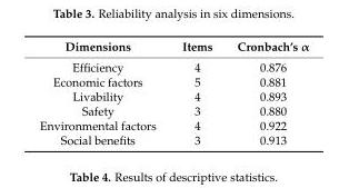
<table><thead><tr><td>Dimensions</td><td>Items</td><td>Cronbach’s α</td></tr></thead><tbody><tr><td>Efficiency</td><td>4</td><td>0.876</td></tr><tr><td>Economic factors</td><td>5</td><td>0.881</td></tr><tr><td>Livability</td><td>4</td><td>0.893</td></tr><tr><td>Safety</td><td>3</td><td>0.880</td></tr><tr><td>Environmental factors</td><td>4</td><td>0.922</td></tr><tr><td>Social benefits</td><td>3</td><td>0.913</td></tr></tbody></table>